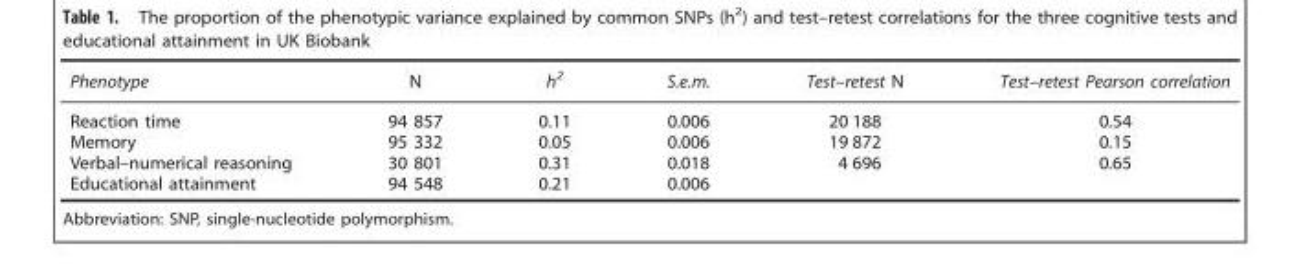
<table><thead><tr><td>Phenotype</td><td>N</td><td>h<sup>2</sup></td><td>S.e.m.</td><td>Test–retest N</td><td>Test–retest Pearson correlation</td></tr></thead><tbody><tr><td>Reaction time</td><td>94 857</td><td>0.11</td><td>0.006</td><td>20 188</td><td>0.54</td></tr><tr><td>Memory</td><td>95 332</td><td>0.05</td><td>0.006</td><td>19 872</td><td>0.15</td></tr><tr><td>Verbal–numerical reasoning</td><td>30 801</td><td>0.31</td><td>0.018</td><td>4 696</td><td>0.65</td></tr><tr><td>Educational attainment</td><td>94 548</td><td>0.21</td><td>0.006</td><td></td><td></td></tr></tbody></table>